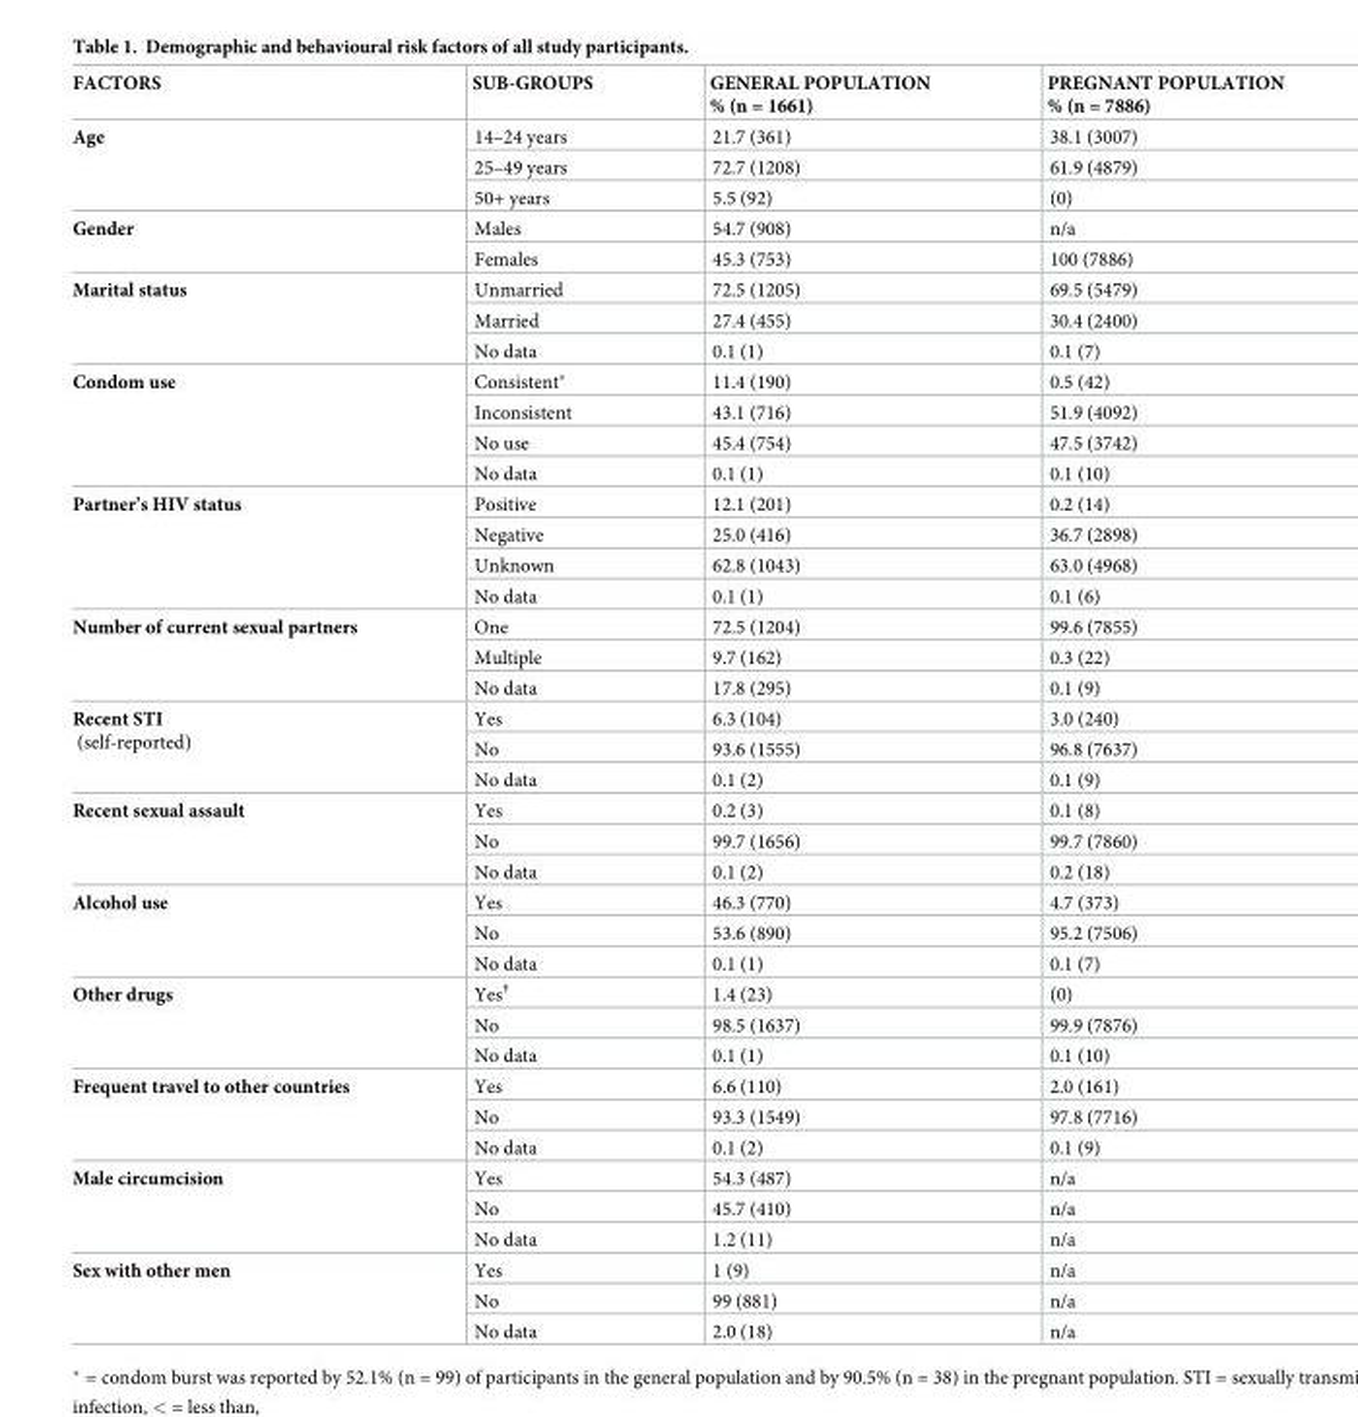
<table><thead><tr><td>FACTORS</td><td>SUB-GROUPS</td><td>GENERAL POPULATION % (n = 1661)</td><td>PREGNANT POPULATION % (n = 7886)</td></tr></thead><tbody><tr><td rowspan="3">Age</td><td>14–24 years</td><td>21.7 (361)</td><td>38.1 (3007)</td></tr><tr><td>25–49 years</td><td>72.7 (1208)</td><td>61.9 (4879)</td></tr><tr><td>50+ years</td><td>5.5 (92)</td><td>(0)</td></tr><tr><td rowspan="2">Gender</td><td>Males</td><td>54.7 (908)</td><td>n/a</td></tr><tr><td>Females</td><td>45.3 (753)</td><td>100 (7886)</td></tr><tr><td rowspan="3">Marital status</td><td>Unmarried</td><td>72.5 (1205)</td><td>69.5 (5479)</td></tr><tr><td>Married</td><td>27.4 (455)</td><td>30.4 (2400)</td></tr><tr><td>No data</td><td>0.1 (1)</td><td>0.1 (7)</td></tr><tr><td rowspan="4">Condom use</td><td>Consistent*</td><td>11.4 (190)</td><td>0.5 (42)</td></tr><tr><td>Inconsistent</td><td>43.1 (716)</td><td>51.9 (4092)</td></tr><tr><td>No use</td><td>45.4 (754)</td><td>47.5 (3742)</td></tr><tr><td>No data</td><td>0.1 (1)</td><td>0.1 (10)</td></tr><tr><td rowspan="4">Partner’s HIV status</td><td>Positive</td><td>12.1 (201)</td><td>0.2 (14)</td></tr><tr><td>Negative</td><td>25.0 (416)</td><td>36.7 (2898)</td></tr><tr><td>Unknown</td><td>62.8 (1043)</td><td>63.0 (4968)</td></tr><tr><td>No data</td><td>0.1 (1)</td><td>0.1 (6)</td></tr><tr><td rowspan="3">Number of current sexual partners</td><td>One</td><td>72.5 (1204)</td><td>99.6 (7855)</td></tr><tr><td>Multiple</td><td>9.7 (162)</td><td>0.3 (22)</td></tr><tr><td>No data</td><td>17.8 (295)</td><td>0.1 (9)</td></tr><tr><td rowspan="3">Recent STI (self-reported)</td><td>Yes</td><td>6.3 (104)</td><td>3.0 (240)</td></tr><tr><td>No</td><td>93.6 (1555)</td><td>96.8 (7637)</td></tr><tr><td>No data</td><td>0.1 (2)</td><td>0.1 (9)</td></tr><tr><td rowspan="3">Recent sexual assault</td><td>Yes</td><td>0.2 (3)</td><td>0.1 (8)</td></tr><tr><td>No</td><td>99.7 (1656)</td><td>99.7 (7860)</td></tr><tr><td>No data</td><td>0.1 (2)</td><td>0.2 (18)</td></tr><tr><td rowspan="3">Alcohol use</td><td>Yes</td><td>46.3 (770)</td><td>4.7 (373)</td></tr><tr><td>No</td><td>53.6 (890)</td><td>95.2 (7506)</td></tr><tr><td>No data</td><td>0.1 (1)</td><td>0.1 (7)</td></tr><tr><td rowspan="3">Other drugs</td><td>Yes<sup>†</sup></td><td>1.4 (23)</td><td>(0)</td></tr><tr><td>No</td><td>98.5 (1637)</td><td>99.9 (7876)</td></tr><tr><td>No data</td><td>0.1 (1)</td><td>0.1 (10)</td></tr><tr><td rowspan="3">Frequent travel to other countries</td><td>Yes</td><td>6.6 (110)</td><td>2.0 (161)</td></tr><tr><td>No</td><td>93.3 (1549)</td><td>97.8 (7716)</td></tr><tr><td>No data</td><td>0.1 (2)</td><td>0.1 (9)</td></tr><tr><td rowspan="3">Male circumcision</td><td>Yes</td><td>54.3 (487)</td><td>n/a</td></tr><tr><td>No</td><td>45.7 (410)</td><td>n/a</td></tr><tr><td>No data</td><td>1.2 (11)</td><td>n/a</td></tr><tr><td rowspan="3">Sex with other men</td><td>Yes</td><td>1 (9)</td><td>n/a</td></tr><tr><td>No</td><td>99 (881)</td><td>n/a</td></tr><tr><td>No data</td><td>2.0 (18)</td><td>n/a</td></tr></tbody></table>